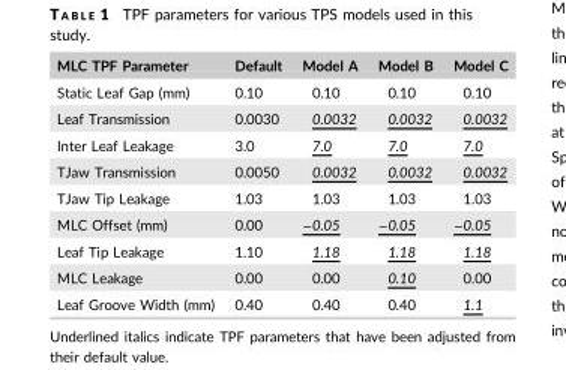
<table><thead><tr><td>MLC TPF Parameter</td><td>Default</td><td>Model A</td><td>Model B</td><td>Model C</td></tr></thead><tbody><tr><td>Static Leaf Gap (mm)</td><td>0.10</td><td>0.10</td><td>0.10</td><td>0.10</td></tr><tr><td>Leaf Transmission</td><td>0.0030</td><td>0.0032</td><td>0.0032</td><td>0.0032</td></tr><tr><td>Inter Leaf Leakage</td><td>3.0</td><td>7.0</td><td>7.0</td><td>7.0</td></tr><tr><td>TJaw Transmission</td><td>0.0050</td><td>0.0032</td><td>0.0032</td><td>0.0032</td></tr><tr><td>TJaw Tip Leakage</td><td>1.03</td><td>1.03</td><td>1.03</td><td>1.03</td></tr><tr><td>MLC Offset (mm)</td><td>0.00</td><td>−0.05</td><td>−0.05</td><td>−0.05</td></tr><tr><td>Leaf Tip Leakage</td><td>1.10</td><td>1.18</td><td>1.18</td><td>1.18</td></tr><tr><td>MLC Leakage</td><td>0.00</td><td>0.00</td><td>0.10</td><td>0.00</td></tr><tr><td>Leaf Groove Width (mm)</td><td>0.40</td><td>0.40</td><td>0.40</td><td>1.1</td></tr></tbody></table>